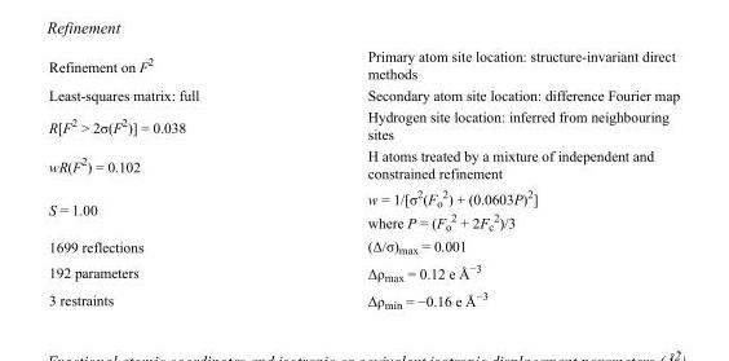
<table><tbody><tr><td>Refinement on F<sup>2</sup></td><td>Primary atom site location: structure-invariant direct methods</td></tr><tr><td>Least-squares matrix: full</td><td>Secondary atom site location: difference Fourier map</td></tr><tr><td>R[F<sup>2</sup> &gt; 2σ(F<sup>2</sup>)] = 0.038</td><td>Hydrogen site location: inferred from neighbouring sites</td></tr><tr><td>wR(F<sup>2</sup>) = 0.102</td><td>H atoms treated by a mixture of independent and constrained refinement</td></tr><tr><td>S = 1.00</td><td>w = 1/[σ<sup>2</sup>(F<sub>o</sub> <sup>2</sup>) + (0.0603P)<sup>2</sup>] where P = (F<sub>o</sub> <sup>2</sup> + 2F<sub>c</sub> <sup>2</sup>)/3</td></tr><tr><td>1699 reflections</td><td>(Δ/σ)<sub>max</sub> = 0.001</td></tr><tr><td>192 parameters</td><td>Δρ<sub>max</sub> = 0.12 e Å<sup>−3</sup></td></tr><tr><td>3 restraints</td><td>Δρ<sub>min</sub> = −0.16 e Å<sup>−3</sup></td></tr></tbody></table>